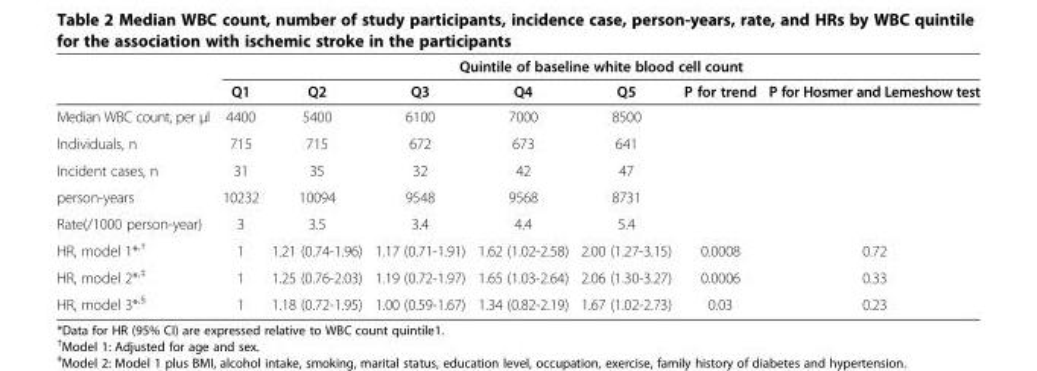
<table><thead><tr><td rowspan="2"></td><td colspan="7">Quintile of baseline white blood cell count</td></tr><tr><td>Q1</td><td>Q2</td><td>Q3</td><td>Q4</td><td>Q5</td><td>P for trend</td><td>P for Hosmer and Lemeshow test</td></tr></thead><tbody><tr><td>Median WBC count, per μl</td><td>4400</td><td>5400</td><td>6100</td><td>7000</td><td>8500</td><td></td><td></td></tr><tr><td>Individuals, n</td><td>715</td><td>715</td><td>672</td><td>673</td><td>641</td><td></td><td></td></tr><tr><td>Incident cases, n</td><td>31</td><td>35</td><td>32</td><td>42</td><td>47</td><td></td><td></td></tr><tr><td>person-years</td><td>10232</td><td>10094</td><td>9548</td><td>9568</td><td>8731</td><td></td><td></td></tr><tr><td>Rate(/1000 person-year)</td><td>3</td><td>3.5</td><td>3.4</td><td>4.4</td><td>5.4</td><td></td><td></td></tr><tr><td>HR, model 1*<sup>,†</sup></td><td>1</td><td>1.21 (0.74-1.96)</td><td>1.17 (0.71-1.91)</td><td>1.62 (1.02-2.58)</td><td>2.00 (1.27-3.15)</td><td>0.0008</td><td>0.72</td></tr><tr><td>HR, model 2*<sup>,‡</sup></td><td>1</td><td>1.25 (0.76-2.03)</td><td>1.19 (0.72-1.97)</td><td>1.65 (1.03-2.64)</td><td>2.06 (1.30-3.27)</td><td>0.0006</td><td>0.33</td></tr><tr><td>HR, model 3*<sup>,§</sup></td><td>1</td><td>1.18 (0.72-1.95)</td><td>1.00 (0.59-1.67)</td><td>1.34 (0.82-2.19)</td><td>1.67 (1.02-2.73)</td><td>0.03</td><td>0.23</td></tr></tbody></table>